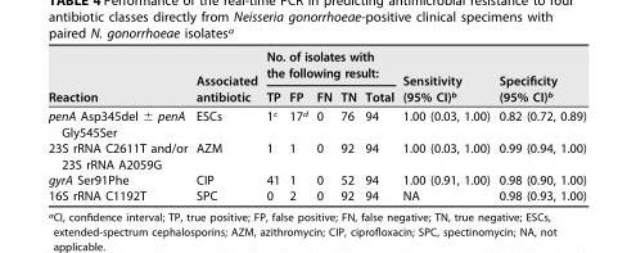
<table><thead><tr><td rowspan="2">Reaction</td><td rowspan="2">Associated antibiotic</td><td colspan="5">No. of isolates with the following result:</td><td rowspan="2">Sensitivity (95% CI)<sup>b</sup></td><td rowspan="2">Specificity (95% CI)<sup>b</sup></td></tr><tr><td>TP</td><td>FP</td><td>FN</td><td>TN</td><td>Total</td></tr></thead><tbody><tr><td>penA Asp345del ± penA Gly545Ser</td><td>ESCs</td><td>1<sup>c</sup></td><td>17<sup>d</sup></td><td>0</td><td>76</td><td>94</td><td>1.00 (0.03, 1.00)</td><td>0.82 (0.72, 0.89)</td></tr><tr><td>23S rRNA C2611T and/or 23S rRNA A2059G</td><td>AZM</td><td>1</td><td>1</td><td>0</td><td>92</td><td>94</td><td>1.00 (0.03, 1.00)</td><td>0.99 (0.94, 1.00)</td></tr><tr><td>gyrA Ser91Phe</td><td>CIP</td><td>41</td><td>1</td><td>0</td><td>52</td><td>94</td><td>1.00 (0.91, 1.00)</td><td>0.98 (0.90, 1.00)</td></tr><tr><td>16S rRNA C1192T</td><td>SPC</td><td>0</td><td>2</td><td>0</td><td>92</td><td>94</td><td>NA</td><td>0.98 (0.93, 1.00)</td></tr></tbody></table>